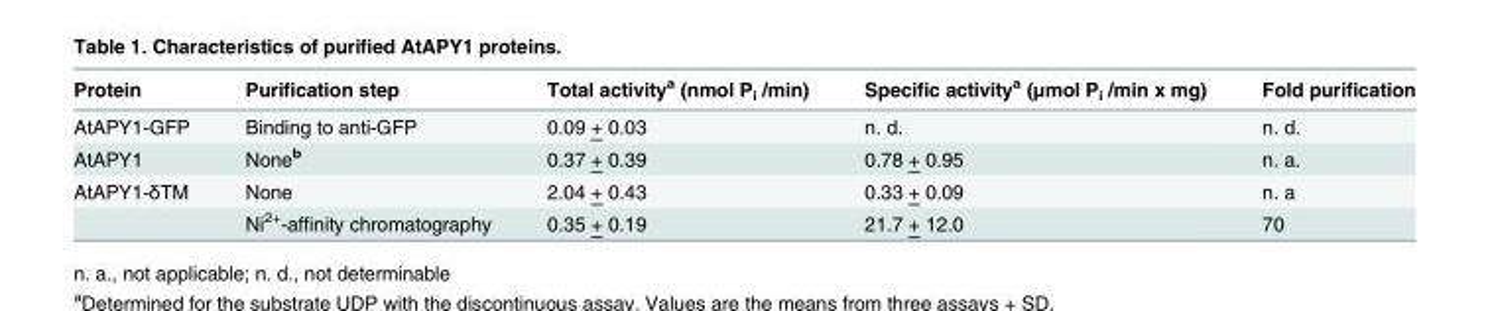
<table><thead><tr><td>Protein</td><td>Purification step</td><td>Total activity<sup>a</sup> (nmol P<sub>i</sub> /min)</td><td>Specific activity<sup>a</sup> (μmol P<sub>i</sub> /min x mg)</td><td>Fold purification</td></tr></thead><tbody><tr><td>AtAPY1-GFP</td><td>Binding to anti-GFP</td><td>0.09 + 0.03</td><td>n. d.</td><td>n. d.</td></tr><tr><td>AtAPY1</td><td>None<sup>b</sup></td><td>0.37 + 0.39</td><td>0.78 + 0.95</td><td>n. a.</td></tr><tr><td rowspan="2">AtAPY1-δTM</td><td>None</td><td>2.04 + 0.43</td><td>0.33 + 0.09</td><td>n. a</td></tr><tr><td>Ni<sup>2+</sup>-affinity chromatography</td><td>0.35 + 0.19</td><td>21.7 + 12.0</td><td>70</td></tr></tbody></table>